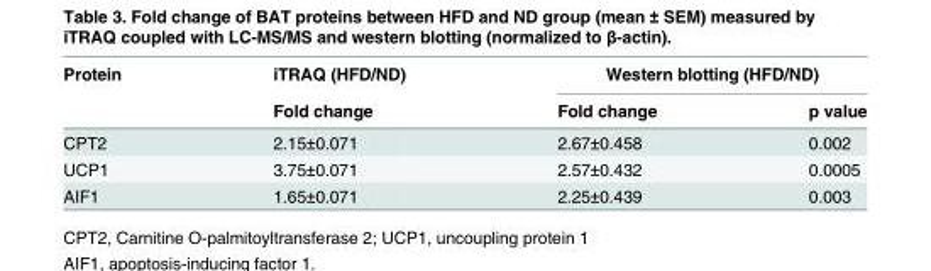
<table><thead><tr><td rowspan="2">Protein</td><td rowspan="2">iTRAQ (HFD/ND) Fold change</td><td colspan="2">Western blotting (HFD/ND)</td></tr><tr><td>Fold change</td><td>p value</td></tr></thead><tbody><tr><td>CPT2</td><td>2.15±0.071</td><td>2.67±0.458</td><td>0.002</td></tr><tr><td>UCP1</td><td>3.75±0.071</td><td>2.57±0.432</td><td>0.0005</td></tr><tr><td>AIF1</td><td>1.65±0.071</td><td>2.25±0.439</td><td>0.003</td></tr></tbody></table>